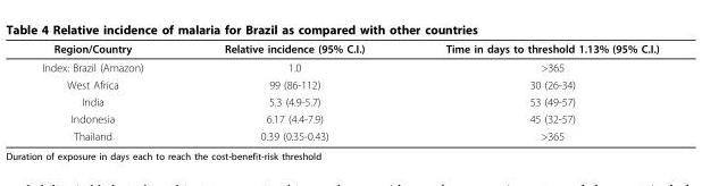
<table><thead><tr><td>Region/Country</td><td>Relative incidence (95% C.I.)</td><td>Time in days to threshold 1.13% (95% C.I.)</td></tr></thead><tbody><tr><td>Index: Brazil (Amazon)</td><td>1.0</td><td>&gt;365</td></tr><tr><td>West Africa</td><td>99 (86-112)</td><td>30 (26-34)</td></tr><tr><td>India</td><td>5.3 (4.9-5.7)</td><td>53 (49-57)</td></tr><tr><td>Indonesia</td><td>6.17 (4.4-7.9)</td><td>45 (32-57)</td></tr><tr><td>Thailand</td><td>0.39 (0.35-0.43)</td><td>&gt;365</td></tr></tbody></table>